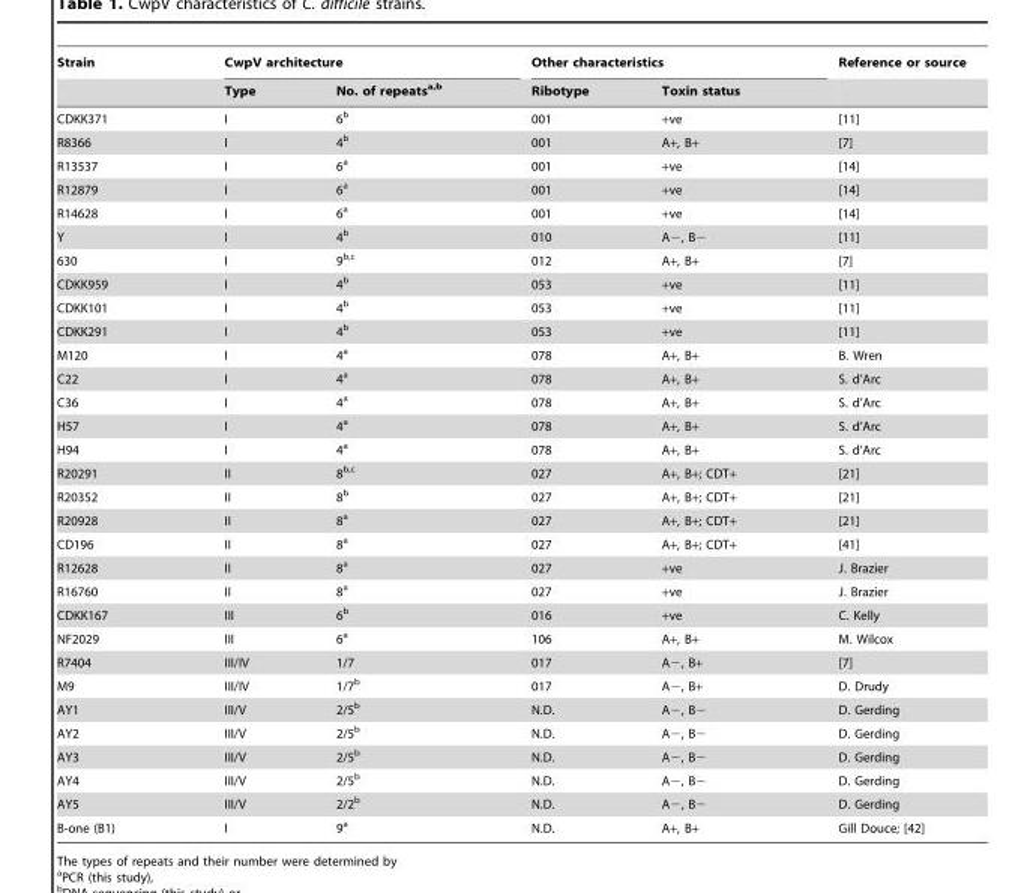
<table><thead><tr><td rowspan="2">Strain</td><td colspan="2">CwpV architecture</td><td colspan="2">Other characteristics</td><td rowspan="2">Reference or source</td></tr><tr><td>Type</td><td>No. of repeats<sup>a,</sup>b</td><td>Ribotype</td><td>Toxin status</td></tr></thead><tbody><tr><td>CDKK371</td><td>I</td><td>6<sup>b</sup></td><td>001</td><td>+ve</td><td>[11]</td></tr><tr><td>R8366</td><td>I</td><td>4<sup>b</sup></td><td>001</td><td>A+, B+</td><td>[7]</td></tr><tr><td>R13537</td><td>I</td><td>6<sup>a</sup></td><td>001</td><td>+ve</td><td>[14]</td></tr><tr><td>R12879</td><td>I</td><td>6<sup>a</sup></td><td>001</td><td>+ve</td><td>[14]</td></tr><tr><td>R14628</td><td>I</td><td>6<sup>a</sup></td><td>001</td><td>+ve</td><td>[14]</td></tr><tr><td>Y</td><td>I</td><td>4<sup>b</sup></td><td>010</td><td>A−, B−</td><td>[11]</td></tr><tr><td>630</td><td>I</td><td>9<sup>b,</sup>c</td><td>012</td><td>A+, B+</td><td>[7]</td></tr><tr><td>CDKK959</td><td>I</td><td>4<sup>b</sup></td><td>053</td><td>+ve</td><td>[11]</td></tr><tr><td>CDKK101</td><td>I</td><td>4<sup>b</sup></td><td>053</td><td>+ve</td><td>[11]</td></tr><tr><td>CDKK291</td><td>I</td><td>4<sup>b</sup></td><td>053</td><td>+ve</td><td>[11]</td></tr><tr><td>M120</td><td>I</td><td>4<sup>a</sup></td><td>078</td><td>A+, B+</td><td>B. Wren</td></tr><tr><td>C22</td><td>I</td><td>4<sup>a</sup></td><td>078</td><td>A+, B+</td><td>S. d’Arc</td></tr><tr><td>C36</td><td>I</td><td>4<sup>a</sup></td><td>078</td><td>A+, B+</td><td>S. d’Arc</td></tr><tr><td>H57</td><td>I</td><td>4<sup>a</sup></td><td>078</td><td>A+, B+</td><td>S. d’Arc</td></tr><tr><td>H94</td><td>I</td><td>4<sup>a</sup></td><td>078</td><td>A+, B+</td><td>S. d’Arc</td></tr><tr><td>R20291</td><td>II</td><td>8<sup>b,</sup>c</td><td>027</td><td>A+, B+; CDT+</td><td>[21]</td></tr><tr><td>R20352</td><td>II</td><td>8<sup>b</sup></td><td>027</td><td>A+, B+; CDT+</td><td>[21]</td></tr><tr><td>R20928</td><td>II</td><td>8<sup>a</sup></td><td>027</td><td>A+, B+; CDT+</td><td>[21]</td></tr><tr><td>CD196</td><td>II</td><td>8<sup>a</sup></td><td>027</td><td>A+, B+; CDT+</td><td>[41]</td></tr><tr><td>R12628</td><td>II</td><td>8<sup>a</sup></td><td>027</td><td>+ve</td><td>J. Brazier</td></tr><tr><td>R16760</td><td>II</td><td>8<sup>a</sup></td><td>027</td><td>+ve</td><td>J. Brazier</td></tr><tr><td>CDKK167</td><td>III</td><td>6<sup>b</sup></td><td>016</td><td>+ve</td><td>C. Kelly</td></tr><tr><td>NF2029</td><td>III</td><td>6<sup>a</sup></td><td>106</td><td>A+, B+</td><td>M. Wilcox</td></tr><tr><td>R7404</td><td>III/IV</td><td>1/7</td><td>017</td><td>A−, B+</td><td>[7]</td></tr><tr><td>M9</td><td>III/IV</td><td>1/7<sup>b</sup></td><td>017</td><td>A−, B+</td><td>D. Drudy</td></tr><tr><td>AY1</td><td>III/V</td><td>2/5<sup>b</sup></td><td>N.D.</td><td>A−, B−</td><td>D. Gerding</td></tr><tr><td>AY2</td><td>III/V</td><td>2/5<sup>b</sup></td><td>N.D.</td><td>A−, B−</td><td>D. Gerding</td></tr><tr><td>AY3</td><td>III/V</td><td>2/5<sup>b</sup></td><td>N.D.</td><td>A−, B−</td><td>D. Gerding</td></tr><tr><td>AY4</td><td>III/V</td><td>2/5<sup>b</sup></td><td>N.D.</td><td>A−, B−</td><td>D. Gerding</td></tr><tr><td>AY5</td><td>III/V</td><td>2/2<sup>b</sup></td><td>N.D.</td><td>A−, B−</td><td>D. Gerding</td></tr><tr><td>B-one (B1)</td><td>I</td><td>9<sup>a</sup></td><td>N.D.</td><td>A+, B+</td><td>Gill Douce; [42]</td></tr></tbody></table>